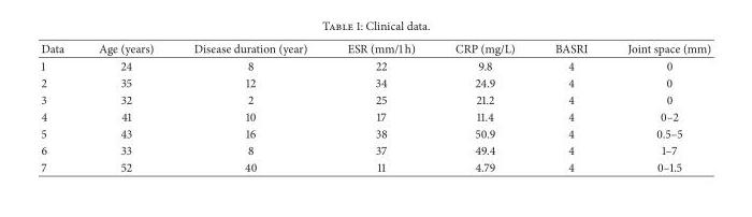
<table><thead><tr><td>Data</td><td>Age (years)</td><td>Disease duration (year)</td><td>ESR (mm/1 h)</td><td>CRP (mg/L)</td><td>BASRI</td><td>Joint space (mm)</td></tr></thead><tbody><tr><td>1</td><td>24</td><td>8</td><td>22</td><td>9.8</td><td>4</td><td>0</td></tr><tr><td>2</td><td>35</td><td>12</td><td>34</td><td>24.9</td><td>4</td><td>0</td></tr><tr><td>3</td><td>32</td><td>2</td><td>25</td><td>21.2</td><td>4</td><td>0</td></tr><tr><td>4</td><td>41</td><td>10</td><td>17</td><td>11.4</td><td>4</td><td>0–2</td></tr><tr><td>5</td><td>43</td><td>16</td><td>38</td><td>50.9</td><td>4</td><td>0.5–5</td></tr><tr><td>6</td><td>33</td><td>8</td><td>37</td><td>49.4</td><td>4</td><td>1–7</td></tr><tr><td>7</td><td>52</td><td>40</td><td>11</td><td>4.79</td><td>4</td><td>0–1.5</td></tr></tbody></table>